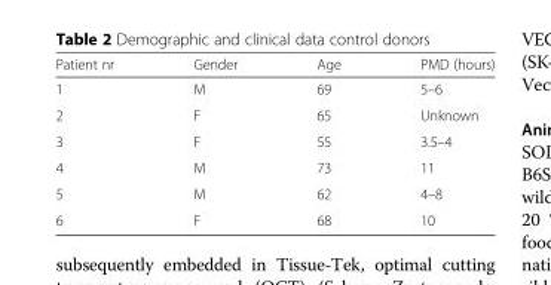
<table><thead><tr><td>Patient nr</td><td>Gender</td><td>Age</td><td>PMD (hours)</td></tr></thead><tbody><tr><td>1</td><td>M</td><td>69</td><td>5–6</td></tr><tr><td>2</td><td>F</td><td>65</td><td>Unknown</td></tr><tr><td>3</td><td>F</td><td>55</td><td>3.5–4</td></tr><tr><td>4</td><td>M</td><td>73</td><td>11</td></tr><tr><td>5</td><td>M</td><td>62</td><td>4–8</td></tr><tr><td>6</td><td>F</td><td>68</td><td>10</td></tr></tbody></table>